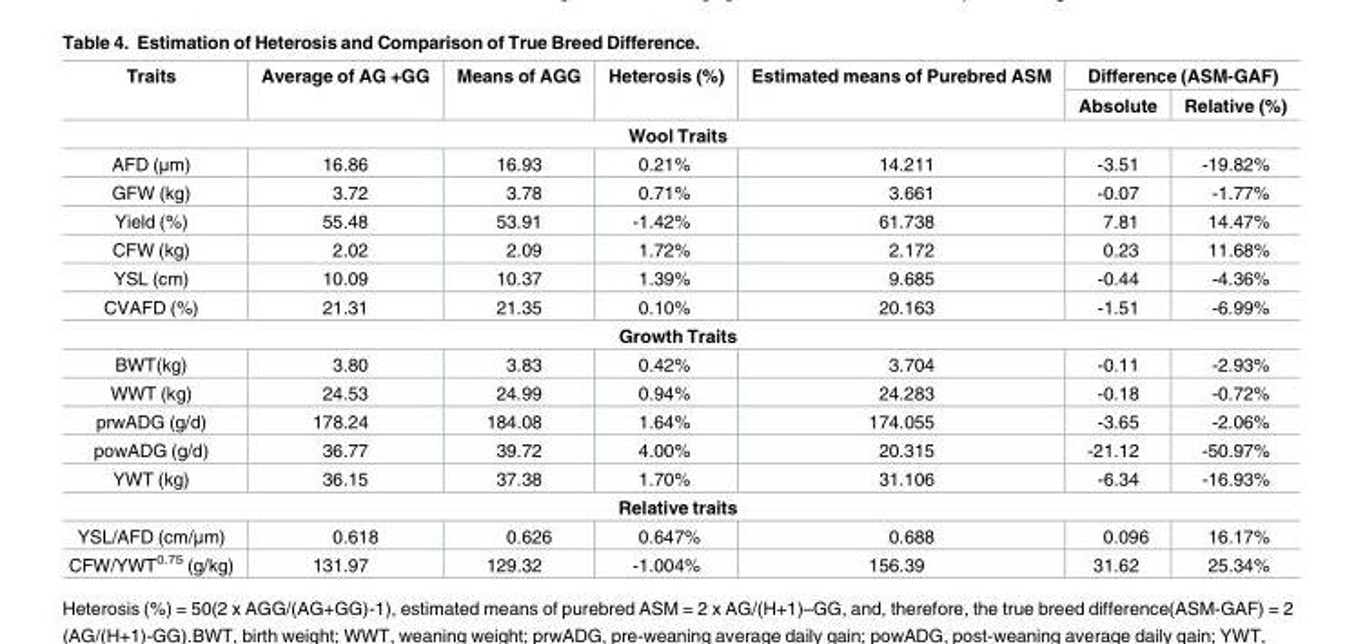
<table><thead><tr><td rowspan="2">Traits</td><td rowspan="2">Average of AG +GG</td><td rowspan="2">Means of AGG</td><td rowspan="2">Heterosis (%)</td><td rowspan="2">Estimated means of Purebred ASM</td><td colspan="2">Difference (ASM-GAF)</td></tr><tr><td>Absolute</td><td>Relative (%)</td></tr></thead><tbody><tr><td colspan="7">Wool Traits</td></tr><tr><td>AFD (μm)</td><td>16.86</td><td>16.93</td><td>0.21%</td><td>14.211</td><td>-3.51</td><td>-19.82%</td></tr><tr><td>GFW (kg)</td><td>3.72</td><td>3.78</td><td>0.71%</td><td>3.661</td><td>-0.07</td><td>-1.77%</td></tr><tr><td>Yield (%)</td><td>55.48</td><td>53.91</td><td>-1.42%</td><td>61.738</td><td>7.81</td><td>14.47%</td></tr><tr><td>CFW (kg)</td><td>2.02</td><td>2.09</td><td>1.72%</td><td>2.172</td><td>0.23</td><td>11.68%</td></tr><tr><td>YSL (cm)</td><td>10.09</td><td>10.37</td><td>1.39%</td><td>9.685</td><td>-0.44</td><td>-4.36%</td></tr><tr><td>CVAFD (%)</td><td>21.31</td><td>21.35</td><td>0.10%</td><td>20.163</td><td>-1.51</td><td>-6.99%</td></tr><tr><td colspan="7">Growth Traits</td></tr><tr><td>BWT(kg)</td><td>3.80</td><td>3.83</td><td>0.42%</td><td>3.704</td><td>-0.11</td><td>-2.93%</td></tr><tr><td>WWT (kg)</td><td>24.53</td><td>24.99</td><td>0.94%</td><td>24.283</td><td>-0.18</td><td>-0.72%</td></tr><tr><td>prwADG (g/d)</td><td>178.24</td><td>184.08</td><td>1.64%</td><td>174.055</td><td>-3.65</td><td>-2.06%</td></tr><tr><td>powADG (g/d)</td><td>36.77</td><td>39.72</td><td>4.00%</td><td>20.315</td><td>-21.12</td><td>-50.97%</td></tr><tr><td>YWT (kg)</td><td>36.15</td><td>37.38</td><td>1.70%</td><td>31.106</td><td>-6.34</td><td>-16.93%</td></tr><tr><td colspan="7">Relative traits</td></tr><tr><td>YSL/AFD (cm/μm)</td><td>0.618</td><td>0.626</td><td>0.647%</td><td>0.688</td><td>0.096</td><td>16.17%</td></tr><tr><td>CFW/YWT<sup>0.75</sup> (g/kg)</td><td>131.97</td><td>129.32</td><td>-1.004%</td><td>156.39</td><td>31.62</td><td>25.34%</td></tr></tbody></table>